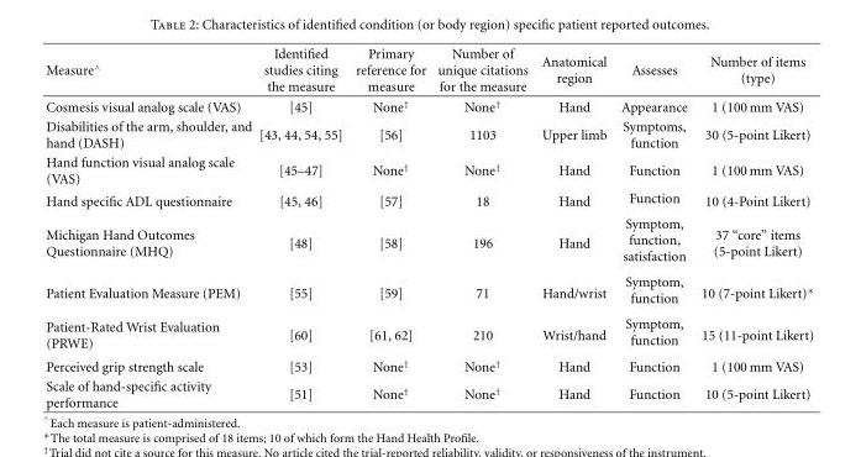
<table><thead><tr><td>Measure∧</td><td>Identified studies citing the measure</td><td>Primary reference for measure</td><td>Number of unique citations for the measure</td><td>Anatomical region</td><td>Assesses</td><td>Number of items (type)</td></tr></thead><tbody><tr><td>Cosmesis visual analog scale (VAS)</td><td>[45]</td><td>None<sup>†</sup></td><td>None<sup>†</sup></td><td>Hand</td><td>Appearance</td><td>1 (100 mm VAS)</td></tr><tr><td>Disabilities of the arm, shoulder, and hand (DASH)</td><td>[43, 44, 54, 55]</td><td>[56]</td><td>1103</td><td>Upper limb</td><td>Symptoms, function</td><td>30 (5-point Likert)</td></tr><tr><td>Hand function visual analog scale (VAS)</td><td>[45–47]</td><td>None<sup>†</sup></td><td>None<sup>†</sup></td><td>Hand</td><td>Function</td><td>1 (100 mm VAS)</td></tr><tr><td>Hand specific ADL questionnaire</td><td>[45, 46]</td><td>[57]</td><td>18</td><td>Hand</td><td>Function</td><td>10 (4-Point Likert)</td></tr><tr><td>Michigan Hand Outcomes Questionnaire (MHQ)</td><td>[48]</td><td>[58]</td><td>196</td><td>Hand</td><td>Symptom, function, satisfaction</td><td>37 “core” items (5-point Likert)</td></tr><tr><td>Patient Evaluation Measure (PEM)</td><td>[55]</td><td>[59]</td><td>71</td><td>Hand/wrist</td><td>Symptom, function</td><td>10 (7-point Likert)∗</td></tr><tr><td>Patient-Rated Wrist Evaluation (PRWE)</td><td>[60]</td><td>[61, 62]</td><td>210</td><td>Wrist/hand</td><td>Symptom, function</td><td>15 (11-point Likert)</td></tr><tr><td>Perceived grip strength scale</td><td>[53]</td><td>None<sup>†</sup></td><td>None<sup>†</sup></td><td>Hand</td><td>Function</td><td>1 (100 mm VAS)</td></tr><tr><td>Scale of hand-specific activity performance</td><td>[51]</td><td>None<sup>†</sup></td><td>None<sup>†</sup></td><td>Hand</td><td>Function</td><td>10 (5-point Likert)</td></tr></tbody></table>